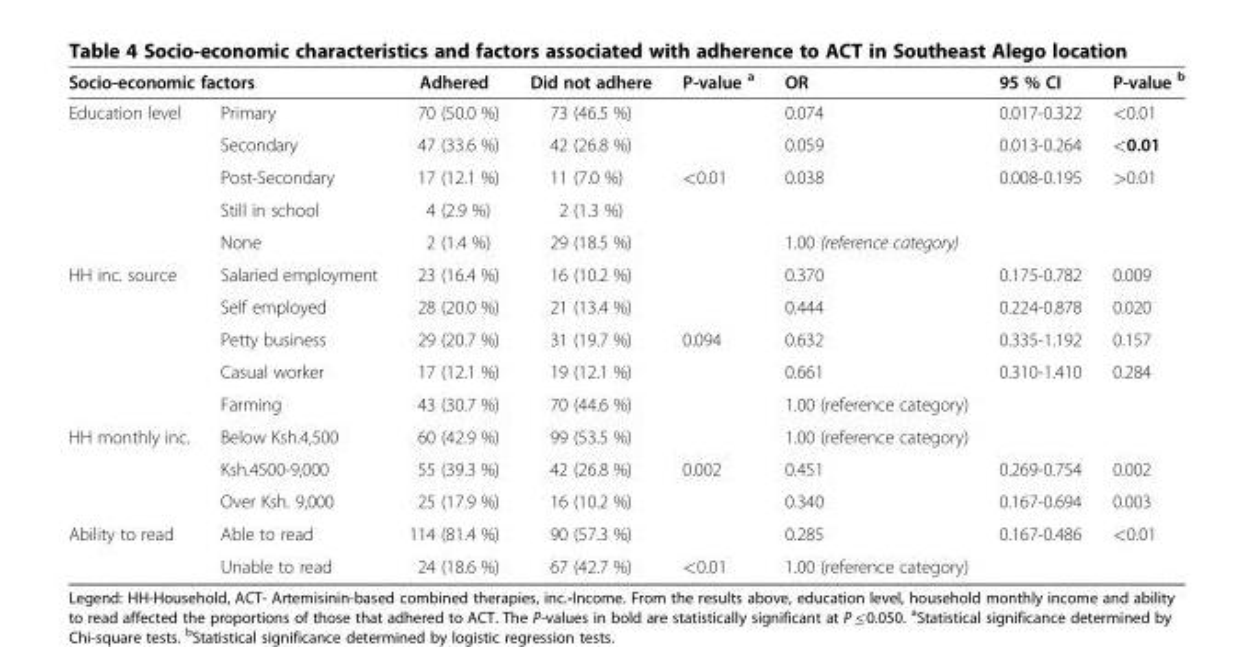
<table><thead><tr><td colspan="2">Socio-economic factors</td><td rowspan="2">Adhered 70 (50.0 %)</td><td rowspan="2">Did not adhere 73 (46.5 %)</td><td rowspan="2">P-value <sup>a</sup></td><td rowspan="2">OR 0.074</td><td rowspan="2">95 % CI 0.017-0.322</td><td rowspan="2">P-value b &lt;0.01</td></tr><tr><td>Education level</td><td>Primary</td></tr></thead><tbody><tr><td></td><td>Secondary</td><td>47 (33.6 %)</td><td>42 (26.8 %)</td><td></td><td>0.059</td><td>0.013-0.264</td><td>&lt;0.01</td></tr><tr><td></td><td>Post-Secondary</td><td>17 (12.1 %)</td><td>11 (7.0 %)</td><td>&lt;0.01</td><td>0.038</td><td>0.008-0.195</td><td>&gt;0.01</td></tr><tr><td></td><td>Still in school</td><td>4 (2.9 %)</td><td>2 (1.3 %)</td><td></td><td></td><td></td><td></td></tr><tr><td></td><td>None</td><td>2 (1.4 %)</td><td>29 (18.5 %)</td><td></td><td>1.00 (reference category)</td><td></td><td></td></tr><tr><td rowspan="5">HH inc. source</td><td>Salaried employment</td><td>23 (16.4 %)</td><td>16 (10.2 %)</td><td></td><td>0.370</td><td>0.175-0.782</td><td>0.009</td></tr><tr><td>Self employed</td><td>28 (20.0 %)</td><td>21 (13.4 %)</td><td></td><td>0.444</td><td>0.224-0.878</td><td>0.020</td></tr><tr><td>Petty business</td><td>29 (20.7 %)</td><td>31 (19.7 %)</td><td>0.094</td><td>0.632</td><td>0.335-1.192</td><td>0.157</td></tr><tr><td>Casual worker</td><td>17 (12.1 %)</td><td>19 (12.1 %)</td><td></td><td>0.661</td><td>0.310-1.410</td><td>0.284</td></tr><tr><td>Farming</td><td>43 (30.7 %)</td><td>70 (44.6 %)</td><td></td><td>1.00 (reference category)</td><td></td><td></td></tr><tr><td rowspan="3">HH monthly inc.</td><td>Below Ksh.4,500</td><td>60 (42.9 %)</td><td>99 (53.5 %)</td><td></td><td>1.00 (reference category)</td><td></td><td></td></tr><tr><td>Ksh.4500-9,000</td><td>55 (39.3 %)</td><td>42 (26.8 %)</td><td>0.002</td><td>0.451</td><td>0.269-0.754</td><td>0.002</td></tr><tr><td>Over Ksh. 9,000</td><td>25 (17.9 %)</td><td>16 (10.2 %)</td><td></td><td>0.340</td><td>0.167-0.694</td><td>0.003</td></tr><tr><td rowspan="2">Ability to read</td><td>Able to read</td><td>114 (81.4 %)</td><td>90 (57.3 %)</td><td></td><td>0.285</td><td>0.167-0.486</td><td>&lt;0.01</td></tr><tr><td>Unable to read</td><td>24 (18.6 %)</td><td>67 (42.7 %)</td><td>&lt;0.01</td><td>1.00 (reference category)</td><td></td><td></td></tr></tbody></table>